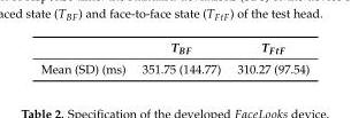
<table><thead><tr><td></td><td>T<sub>BF</sub></td><td>T<sub>FtF</sub></td></tr></thead><tbody><tr><td>Mean (SD) (ms)</td><td>351.75 (144.77)</td><td>310.27 (97.54)</td></tr></tbody></table>